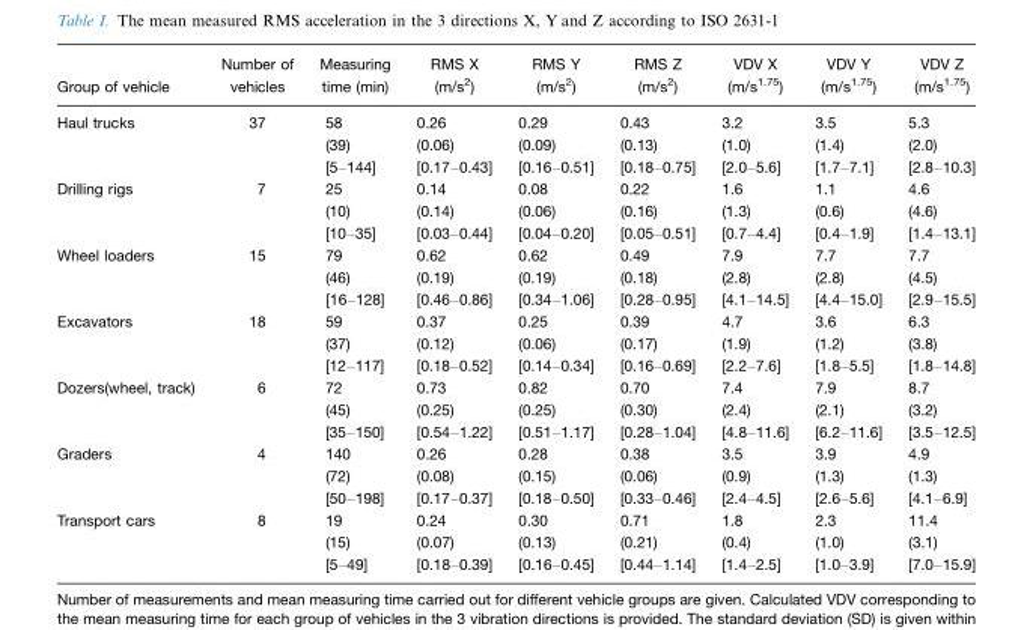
<table><thead><tr><td>Group of vehicle</td><td>Number of vehicles</td><td>Measuring time (min)</td><td>RMS X (m/s<sup>2</sup>)</td><td>RMS Y (m/s<sup>2</sup>)</td><td>RMS Z (m/s<sup>2</sup>)</td><td>VDV X (m/s<sup>1.75</sup>)</td><td>VDV Y (m/s<sup>1.75</sup>)</td><td>VDV Z (m/s<sup>1.75</sup>)</td></tr></thead><tbody><tr><td rowspan="3">Haul trucks</td><td>37</td><td>58</td><td>0.26</td><td>0.29</td><td>0.43</td><td>3.2</td><td>3.5</td><td>5.3</td></tr><tr><td></td><td>(39)</td><td>(0.06)</td><td>(0.09)</td><td>(0.13)</td><td>(1.0)</td><td>(1.4)</td><td>(2.0)</td></tr><tr><td></td><td>[5–144]</td><td>[0.17–0.43]</td><td>[0.16–0.51]</td><td>[0.18–0.75]</td><td>[2.0–5.6]</td><td>[1.7–7.1]</td><td>[2.8–10.3]</td></tr><tr><td rowspan="3">Drilling rigs</td><td>7</td><td>25</td><td>0.14</td><td>0.08</td><td>0.22</td><td>1.6</td><td>1.1</td><td>4.6</td></tr><tr><td></td><td>(10)</td><td>(0.14)</td><td>(0.06)</td><td>(0.16)</td><td>(1.3)</td><td>(0.6)</td><td>(4.6)</td></tr><tr><td></td><td>[10–35]</td><td>[0.03–0.44]</td><td>[0.04–0.20]</td><td>[0.05–0.51]</td><td>[0.7–4.4]</td><td>[0.4–1.9]</td><td>[1.4–13.1]</td></tr><tr><td rowspan="3">Wheel loaders</td><td>15</td><td>79</td><td>0.62</td><td>0.62</td><td>0.49</td><td>7.9</td><td>7.7</td><td>7.7</td></tr><tr><td></td><td>(46)</td><td>(0.19)</td><td>(0.19)</td><td>(0.18)</td><td>(2.8)</td><td>(2.8)</td><td>(4.5)</td></tr><tr><td></td><td>[16–128]</td><td>[0.46–0.86]</td><td>[0.34–1.06]</td><td>[0.28–0.95]</td><td>[4.1–14.5]</td><td>[4.4–15.0]</td><td>[2.9–15.5]</td></tr><tr><td rowspan="3">Excavators</td><td>18</td><td>59</td><td>0.37</td><td>0.25</td><td>0.39</td><td>4.7</td><td>3.6</td><td>6.3</td></tr><tr><td></td><td>(37)</td><td>(0.12)</td><td>(0.06)</td><td>(0.17)</td><td>(1.9)</td><td>(1.2)</td><td>(3.8)</td></tr><tr><td></td><td>[12–117]</td><td>[0.18–0.52]</td><td>[0.14–0.34]</td><td>[0.16–0.69]</td><td>[2.2–7.6]</td><td>[1.8–5.5]</td><td>[1.8–14.8]</td></tr><tr><td rowspan="3">Dozers(wheel, track)</td><td>6</td><td>72</td><td>0.73</td><td>0.82</td><td>0.70</td><td>7.4</td><td>7.9</td><td>8.7</td></tr><tr><td></td><td>(45)</td><td>(0.25)</td><td>(0.25)</td><td>(0.30)</td><td>(2.4)</td><td>(2.1)</td><td>(3.2)</td></tr><tr><td></td><td>[35–150]</td><td>[0.54–1.22]</td><td>[0.51–1.17]</td><td>[0.28–1.04]</td><td>[4.8–11.6]</td><td>[6.2–11.6]</td><td>[3.5–12.5]</td></tr><tr><td rowspan="3">Graders</td><td>4</td><td>140</td><td>0.26</td><td>0.28</td><td>0.38</td><td>3.5</td><td>3.9</td><td>4.9</td></tr><tr><td></td><td>(72)</td><td>(0.08)</td><td>(0.15)</td><td>(0.06)</td><td>(0.9)</td><td>(1.3)</td><td>(1.3)</td></tr><tr><td></td><td>[50–198]</td><td>[0.17–0.37]</td><td>[0.18–0.50]</td><td>[0.33–0.46]</td><td>[2.4–4.5]</td><td>[2.6–5.6]</td><td>[4.1–6.9]</td></tr><tr><td rowspan="3">Transport cars</td><td>8</td><td>19</td><td>0.24</td><td>0.30</td><td>0.71</td><td>1.8</td><td>2.3</td><td>11.4</td></tr><tr><td></td><td>(15)</td><td>(0.07)</td><td>(0.13)</td><td>(0.21)</td><td>(0.4)</td><td>(1.0)</td><td>(3.1)</td></tr><tr><td></td><td>[5–49]</td><td>[0.18–0.39]</td><td>[0.16–0.45]</td><td>[0.44–1.14]</td><td>[1.4–2.5]</td><td>[1.0–3.9]</td><td>[7.0–15.9]</td></tr></tbody></table>